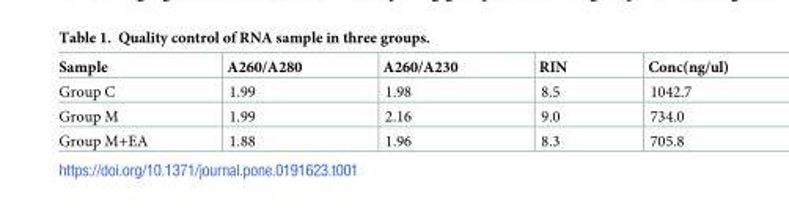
<table><thead><tr><td>Sample</td><td>A260/A280</td><td>A260/A230</td><td>RIN</td><td>Conc(ng/ul)</td></tr></thead><tbody><tr><td>Group C</td><td>1.99</td><td>1.98</td><td>8.5</td><td>1042.7</td></tr><tr><td>Group M</td><td>1.99</td><td>2.16</td><td>9.0</td><td>734.0</td></tr><tr><td>Group M+EA</td><td>1.88</td><td>1.96</td><td>8.3</td><td>705.8</td></tr></tbody></table>